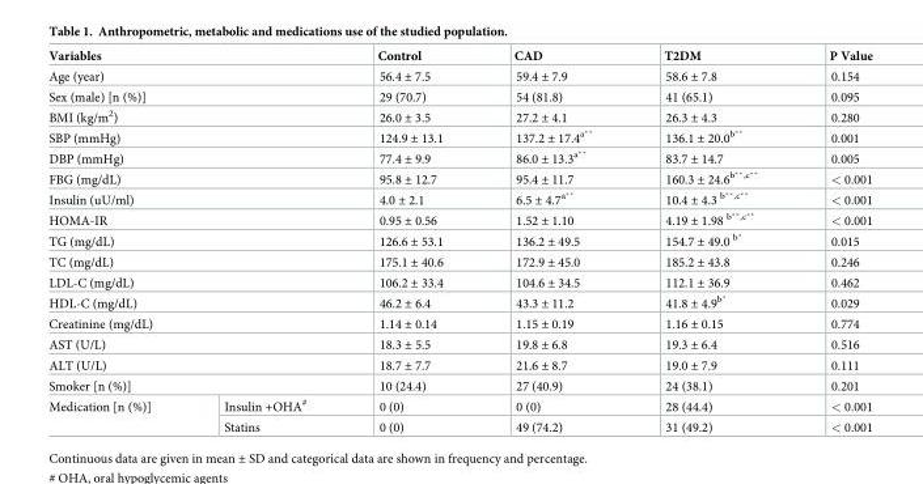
<table><thead><tr><td colspan="2">Variables</td><td>Control</td><td>CAD</td><td>T2DM</td><td>P Value</td></tr></thead><tbody><tr><td colspan="2">Age (year)</td><td>56.4 ± 7.5</td><td>59.4 ± 7.9</td><td>58.6 ± 7.8</td><td>0.154</td></tr><tr><td colspan="2">Sex (male) [n (%)]</td><td>29 (70.7)</td><td>54 (81.8)</td><td>41 (65.1)</td><td>0.095</td></tr><tr><td colspan="2">BMI (kg/m<sup>2</sup>)</td><td>26.0 ± 3.5</td><td>27.2 ± 4.1</td><td>26.3 ± 4.3</td><td>0.280</td></tr><tr><td colspan="2">SBP (mmHg)</td><td>124.9 ± 13.1</td><td>137.2 ± 17.4<sup>a**</sup></td><td>136.1 ± 20.0<sup>b**</sup></td><td>0.001</td></tr><tr><td colspan="2">DBP (mmHg)</td><td>77.4 ± 9.9</td><td>86.0 ± 13.3<sup>a**</sup></td><td>83.7 ± 14.7</td><td>0.005</td></tr><tr><td colspan="2">FBG (mg/dL)</td><td>95.8 ± 12.7</td><td>95.4 ± 11.7</td><td>160.3 ± 24.6<sup>b**,c**</sup></td><td>&lt; 0.001</td></tr><tr><td colspan="2">Insulin (uU/ml)</td><td>4.0 ± 2.1</td><td>6.5 ± 4.7<sup>a**</sup></td><td>10.4 ± 4.3 <sup>b**,c**</sup></td><td>&lt; 0.001</td></tr><tr><td colspan="2">HOMA-IR</td><td>0.95 ± 0.56</td><td>1.52 ± 1.10</td><td>4.19 ± 1.98 <sup>b**,c**</sup></td><td>&lt; 0.001</td></tr><tr><td colspan="2">TG (mg/dL)</td><td>126.6 ± 53.1</td><td>136.2 ± 49.5</td><td>154.7 ± 49.0 <sup>b*</sup></td><td>0.015</td></tr><tr><td colspan="2">TC (mg/dL)</td><td>175.1 ± 40.6</td><td>172.9 ± 45.0</td><td>185.2 ± 43.8</td><td>0.246</td></tr><tr><td colspan="2">LDL-C (mg/dL)</td><td>106.2 ± 33.4</td><td>104.6 ± 34.5</td><td>112.1 ± 36.9</td><td>0.462</td></tr><tr><td colspan="2">HDL-C (mg/dL)</td><td>46.2 ± 6.4</td><td>43.3 ± 11.2</td><td>41.8 ± 4.9<sup>b*</sup></td><td>0.029</td></tr><tr><td colspan="2">Creatinine (mg/dL)</td><td>1.14 ± 0.14</td><td>1.15 ± 0.19</td><td>1.16 ± 0.15</td><td>0.774</td></tr><tr><td colspan="2">AST (U/L)</td><td>18.3 ± 5.5</td><td>19.8 ± 6.8</td><td>19.3 ± 6.4</td><td>0.516</td></tr><tr><td colspan="2">ALT (U/L)</td><td>18.7 ± 7.7</td><td>21.6 ± 8.7</td><td>19.0 ± 7.9</td><td>0.111</td></tr><tr><td colspan="2">Smoker [n (%)]</td><td>10 (24.4)</td><td>27 (40.9)</td><td>24 (38.1)</td><td>0.201</td></tr><tr><td rowspan="2">Medication [n (%)]</td><td>Insulin +OHA<sup>#</sup></td><td>0 (0)</td><td>0 (0)</td><td>28 (44.4)</td><td>&lt; 0.001</td></tr><tr><td>Statins</td><td>0 (0)</td><td>49 (74.2)</td><td>31 (49.2)</td><td>&lt; 0.001</td></tr></tbody></table>